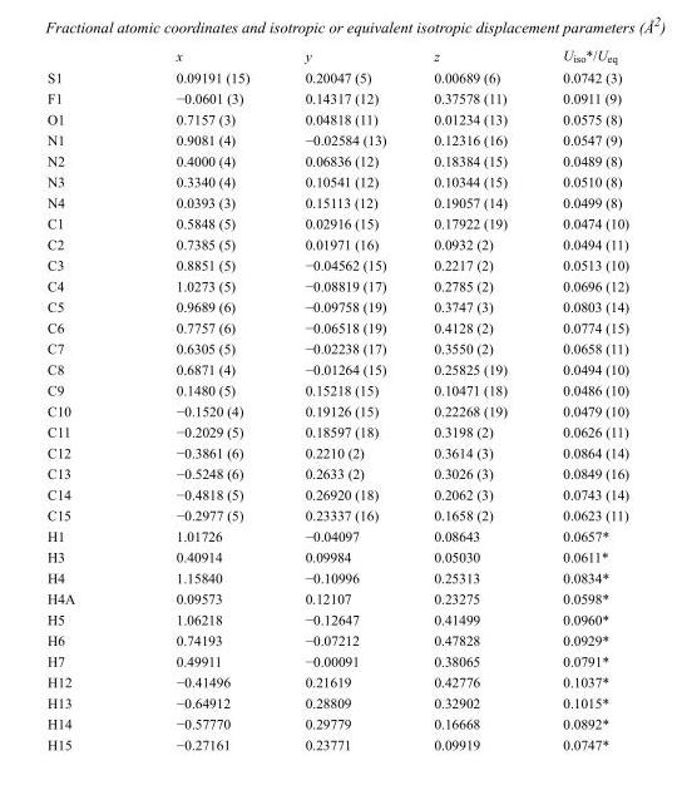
<table><thead><tr><td></td><td>x</td><td>y</td><td>z</td><td>U<sub>iso</sub>*/U<sub>eq</sub></td></tr></thead><tbody><tr><td>S1</td><td>0.09191 (15)</td><td>0.20047 (5)</td><td>0.00689 (6)</td><td>0.0742 (3)</td></tr><tr><td>F1</td><td>−0.0601 (3)</td><td>0.14317 (12)</td><td>0.37578 (11)</td><td>0.0911 (9)</td></tr><tr><td>O1</td><td>0.7157 (3)</td><td>0.04818 (11)</td><td>0.01234 (13)</td><td>0.0575 (8)</td></tr><tr><td>N1</td><td>0.9081 (4)</td><td>−0.02584 (13)</td><td>0.12316 (16)</td><td>0.0547 (9)</td></tr><tr><td>N2</td><td>0.4000 (4)</td><td>0.06836 (12)</td><td>0.18384 (15)</td><td>0.0489 (8)</td></tr><tr><td>N3</td><td>0.3340 (4)</td><td>0.10541 (12)</td><td>0.10344 (15)</td><td>0.0510 (8)</td></tr><tr><td>N4</td><td>0.0393 (3)</td><td>0.15113 (12)</td><td>0.19057 (14)</td><td>0.0499 (8)</td></tr><tr><td>C1</td><td>0.5848 (5)</td><td>0.02916 (15)</td><td>0.17922 (19)</td><td>0.0474 (10)</td></tr><tr><td>C2</td><td>0.7385 (5)</td><td>0.01971 (16)</td><td>0.0932 (2)</td><td>0.0494 (11)</td></tr><tr><td>C3</td><td>0.8851 (5)</td><td>−0.04562 (15)</td><td>0.2217 (2)</td><td>0.0513 (10)</td></tr><tr><td>C4</td><td>1.0273 (5)</td><td>−0.08819 (17)</td><td>0.2785 (2)</td><td>0.0696 (12)</td></tr><tr><td>C5</td><td>0.9689 (6)</td><td>−0.09758 (19)</td><td>0.3747 (3)</td><td>0.0803 (14)</td></tr><tr><td>C6</td><td>0.7757 (6)</td><td>−0.06518 (19)</td><td>0.4128 (2)</td><td>0.0774 (15)</td></tr><tr><td>C7</td><td>0.6305 (5)</td><td>−0.02238 (17)</td><td>0.3550 (2)</td><td>0.0658 (11)</td></tr><tr><td>C8</td><td>0.6871 (4)</td><td>−0.01264 (15)</td><td>0.25825 (19)</td><td>0.0494 (10)</td></tr><tr><td>C9</td><td>0.1480 (5)</td><td>0.15218 (15)</td><td>0.10471 (18)</td><td>0.0486 (10)</td></tr><tr><td>C10</td><td>−0.1520 (4)</td><td>0.19126 (15)</td><td>0.22268 (19)</td><td>0.0479 (10)</td></tr><tr><td>C11</td><td>−0.2029 (5)</td><td>0.18597 (18)</td><td>0.3198 (2)</td><td>0.0626 (11)</td></tr><tr><td>C12</td><td>−0.3861 (6)</td><td>0.2210 (2)</td><td>0.3614 (3)</td><td>0.0864 (14)</td></tr><tr><td>C13</td><td>−0.5248 (6)</td><td>0.2633 (2)</td><td>0.3026 (3)</td><td>0.0849 (16)</td></tr><tr><td>C14</td><td>−0.4818 (5)</td><td>0.26920 (18)</td><td>0.2062 (3)</td><td>0.0743 (14)</td></tr><tr><td>C15</td><td>−0.2977 (5)</td><td>0.23337 (16)</td><td>0.1658 (2)</td><td>0.0623 (11)</td></tr><tr><td>H1</td><td>1.01726</td><td>−0.04097</td><td>0.08643</td><td>0.0657*</td></tr><tr><td>H3</td><td>0.40914</td><td>0.09984</td><td>0.05030</td><td>0.0611*</td></tr><tr><td>H4</td><td>1.15840</td><td>−0.10996</td><td>0.25313</td><td>0.0834*</td></tr><tr><td>H4A</td><td>0.09573</td><td>0.12107</td><td>0.23275</td><td>0.0598*</td></tr><tr><td>H5</td><td>1.06218</td><td>−0.12647</td><td>0.41499</td><td>0.0960*</td></tr><tr><td>H6</td><td>0.74193</td><td>−0.07212</td><td>0.47828</td><td>0.0929*</td></tr><tr><td>H7</td><td>0.49911</td><td>−0.00091</td><td>0.38065</td><td>0.0791*</td></tr><tr><td>H12</td><td>−0.41496</td><td>0.21619</td><td>0.42776</td><td>0.1037*</td></tr><tr><td>H13</td><td>−0.64912</td><td>0.28809</td><td>0.32902</td><td>0.1015*</td></tr><tr><td>H14</td><td>−0.57770</td><td>0.29779</td><td>0.16668</td><td>0.0892*</td></tr><tr><td>H15</td><td>−0.27161</td><td>0.23771</td><td>0.09919</td><td>0.0747*</td></tr></tbody></table>